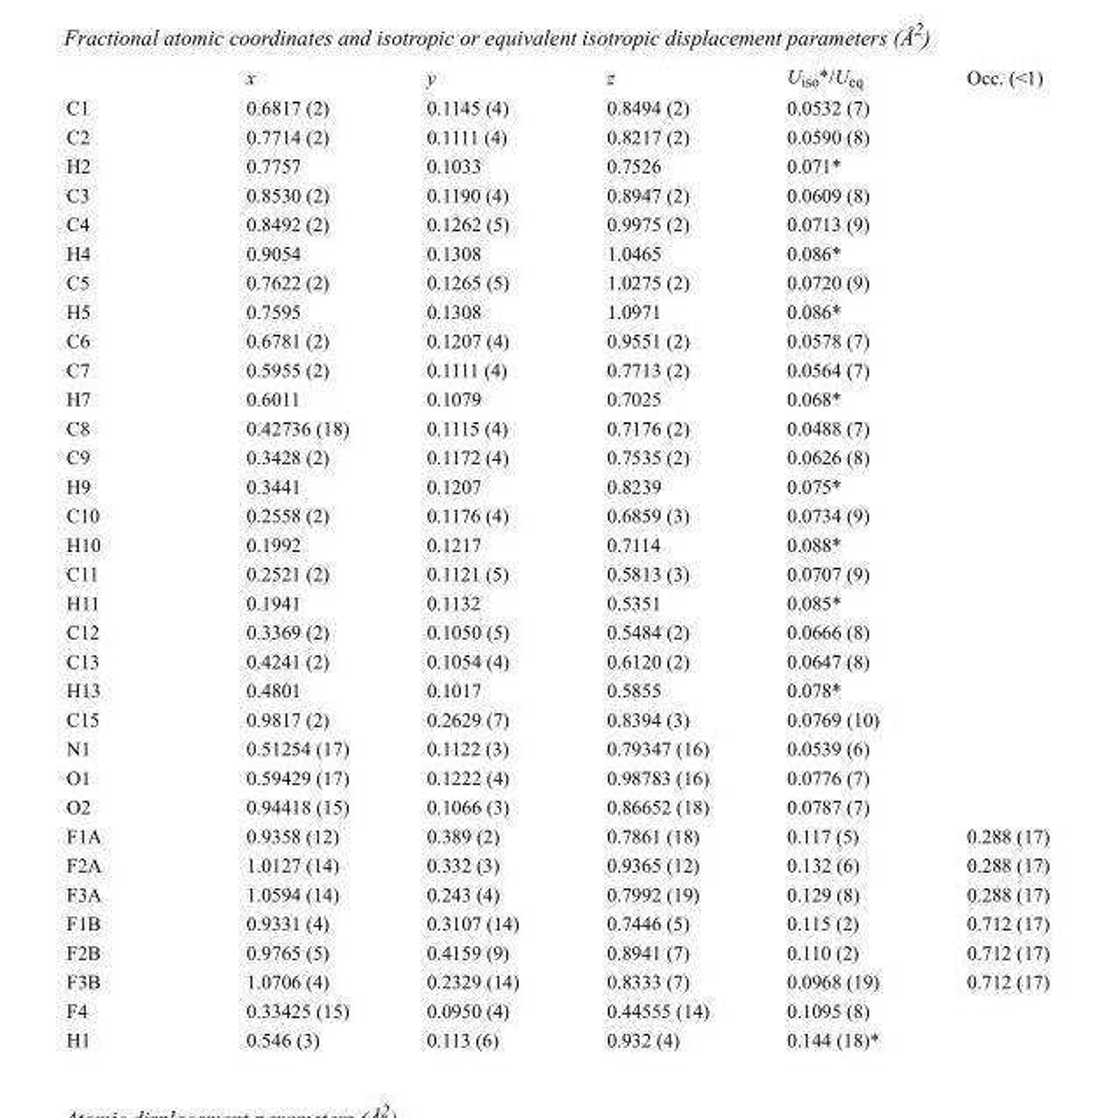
<table><thead><tr><td></td><td>x</td><td>y</td><td>z</td><td>U<sub>iso</sub>*/U<sub>eq</sub></td><td>Occ. (&lt;1)</td></tr></thead><tbody><tr><td>C1</td><td>0.6817 (2)</td><td>0.1145 (4)</td><td>0.8494 (2)</td><td>0.0532 (7)</td><td></td></tr><tr><td>C2</td><td>0.7714 (2)</td><td>0.1111 (4)</td><td>0.8217 (2)</td><td>0.0590 (8)</td><td></td></tr><tr><td>H2</td><td>0.7757</td><td>0.1033</td><td>0.7526</td><td>0.071*</td><td></td></tr><tr><td>C3</td><td>0.8530 (2)</td><td>0.1190 (4)</td><td>0.8947 (2)</td><td>0.0609 (8)</td><td></td></tr><tr><td>C4</td><td>0.8492 (2)</td><td>0.1262 (5)</td><td>0.9975 (2)</td><td>0.0713 (9)</td><td></td></tr><tr><td>H4</td><td>0.9054</td><td>0.1308</td><td>1.0465</td><td>0.086*</td><td></td></tr><tr><td>C5</td><td>0.7622 (2)</td><td>0.1265 (5)</td><td>1.0275 (2)</td><td>0.0720 (9)</td><td></td></tr><tr><td>H5</td><td>0.7595</td><td>0.1308</td><td>1.0971</td><td>0.086*</td><td></td></tr><tr><td>C6</td><td>0.6781 (2)</td><td>0.1207 (4)</td><td>0.9551 (2)</td><td>0.0578 (7)</td><td></td></tr><tr><td>C7</td><td>0.5955 (2)</td><td>0.1111 (4)</td><td>0.7713 (2)</td><td>0.0564 (7)</td><td></td></tr><tr><td>H7</td><td>0.6011</td><td>0.1079</td><td>0.7025</td><td>0.068*</td><td></td></tr><tr><td>C8</td><td>0.42736 (18)</td><td>0.1115 (4)</td><td>0.7176 (2)</td><td>0.0488 (7)</td><td></td></tr><tr><td>C9</td><td>0.3428 (2)</td><td>0.1172 (4)</td><td>0.7535 (2)</td><td>0.0626 (8)</td><td></td></tr><tr><td>H9</td><td>0.3441</td><td>0.1207</td><td>0.8239</td><td>0.075*</td><td></td></tr><tr><td>C10</td><td>0.2558 (2)</td><td>0.1176 (4)</td><td>0.6859 (3)</td><td>0.0734 (9)</td><td></td></tr><tr><td>H10</td><td>0.1992</td><td>0.1217</td><td>0.7114</td><td>0.088*</td><td></td></tr><tr><td>C11</td><td>0.2521 (2)</td><td>0.1121 (5)</td><td>0.5813 (3)</td><td>0.0707 (9)</td><td></td></tr><tr><td>H11</td><td>0.1941</td><td>0.1132</td><td>0.5351</td><td>0.085*</td><td></td></tr><tr><td>C12</td><td>0.3369 (2)</td><td>0.1050 (5)</td><td>0.5484 (2)</td><td>0.0666 (8)</td><td></td></tr><tr><td>C13</td><td>0.4241 (2)</td><td>0.1054 (4)</td><td>0.6120 (2)</td><td>0.0647 (8)</td><td></td></tr><tr><td>H13</td><td>0.4801</td><td>0.1017</td><td>0.5855</td><td>0.078*</td><td></td></tr><tr><td>C15</td><td>0.9817 (2)</td><td>0.2629 (7)</td><td>0.8394 (3)</td><td>0.0769 (10)</td><td></td></tr><tr><td>N1</td><td>0.51254 (17)</td><td>0.1122 (3)</td><td>0.79347 (16)</td><td>0.0539 (6)</td><td></td></tr><tr><td>O1</td><td>0.59429 (17)</td><td>0.1222 (4)</td><td>0.98783 (16)</td><td>0.0776 (7)</td><td></td></tr><tr><td>O2</td><td>0.94418 (15)</td><td>0.1066 (3)</td><td>0.86652 (18)</td><td>0.0787 (7)</td><td></td></tr><tr><td>F1A</td><td>0.9358 (12)</td><td>0.389 (2)</td><td>0.7861 (18)</td><td>0.117 (5)</td><td>0.288 (17)</td></tr><tr><td>F2A</td><td>1.0127 (14)</td><td>0.332 (3)</td><td>0.9365 (12)</td><td>0.132 (6)</td><td>0.288 (17)</td></tr><tr><td>F3A</td><td>1.0594 (14)</td><td>0.243 (4)</td><td>0.7992 (19)</td><td>0.129 (8)</td><td>0.288 (17)</td></tr><tr><td>F1B</td><td>0.9331 (4)</td><td>0.3107 (14)</td><td>0.7446 (5)</td><td>0.115 (2)</td><td>0.712 (17)</td></tr><tr><td>F2B</td><td>0.9765 (5)</td><td>0.4159 (9)</td><td>0.8941 (7)</td><td>0.110 (2)</td><td>0.712 (17)</td></tr><tr><td>F3B</td><td>1.0706 (4)</td><td>0.2329 (14)</td><td>0.8333 (7)</td><td>0.0968 (19)</td><td>0.712 (17)</td></tr><tr><td>F4</td><td>0.33425 (15)</td><td>0.0950 (4)</td><td>0.44555 (14)</td><td>0.1095 (8)</td><td></td></tr><tr><td>H1</td><td>0.546 (3)</td><td>0.113 (6)</td><td>0.932 (4)</td><td>0.144 (18)*</td><td></td></tr></tbody></table>